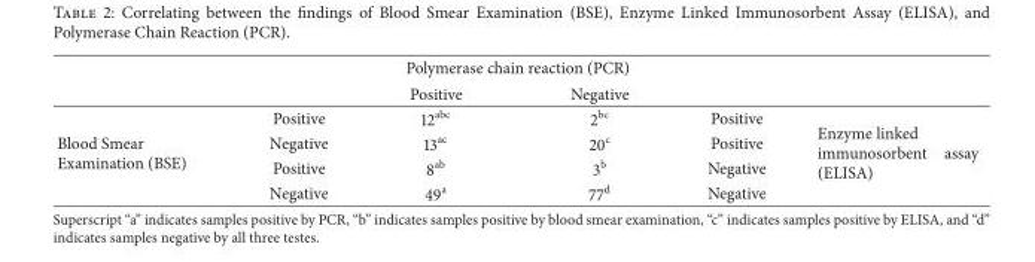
<table><thead><tr><td rowspan="2"></td><td rowspan="2"></td><td colspan="2">Polymerase chain reaction (PCR)</td><td rowspan="2"></td><td rowspan="2"></td></tr><tr><td>Positive</td><td>Negative</td></tr></thead><tbody><tr><td rowspan="4">Blood Smear Examination (BSE)</td><td>Positive</td><td>12<sup>abc</sup></td><td>2<sup>bc</sup></td><td>Positive</td><td rowspan="4">Enzyme linked immunosorbent assay (ELISA)</td></tr><tr><td>Negative</td><td>13<sup>ac</sup></td><td>20<sup>c</sup></td><td>Positive</td></tr><tr><td>Positive</td><td>8<sup>ab</sup></td><td>3<sup>b</sup></td><td>Negative</td></tr><tr><td>Negative</td><td>49<sup>a</sup></td><td>77<sup>d</sup></td><td>Negative</td></tr></tbody></table>